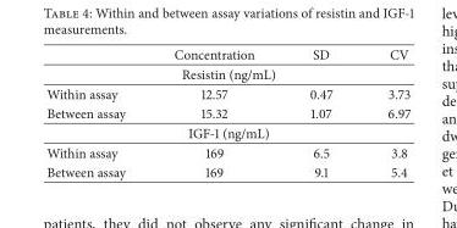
<table><thead><tr><td></td><td>Concentration</td><td>SD</td><td>CV</td></tr></thead><tbody><tr><td colspan="4">Resistin (ng/mL)</td></tr><tr><td>Within assay</td><td>12.57</td><td>0.47</td><td>3.73</td></tr><tr><td>Between assay</td><td>15.32</td><td>1.07</td><td>6.97</td></tr><tr><td colspan="4">IGF-1 (ng/mL)</td></tr><tr><td>Within assay</td><td>169</td><td>6.5</td><td>3.8</td></tr><tr><td>Between assay</td><td>169</td><td>9.1</td><td>5.4</td></tr></tbody></table>